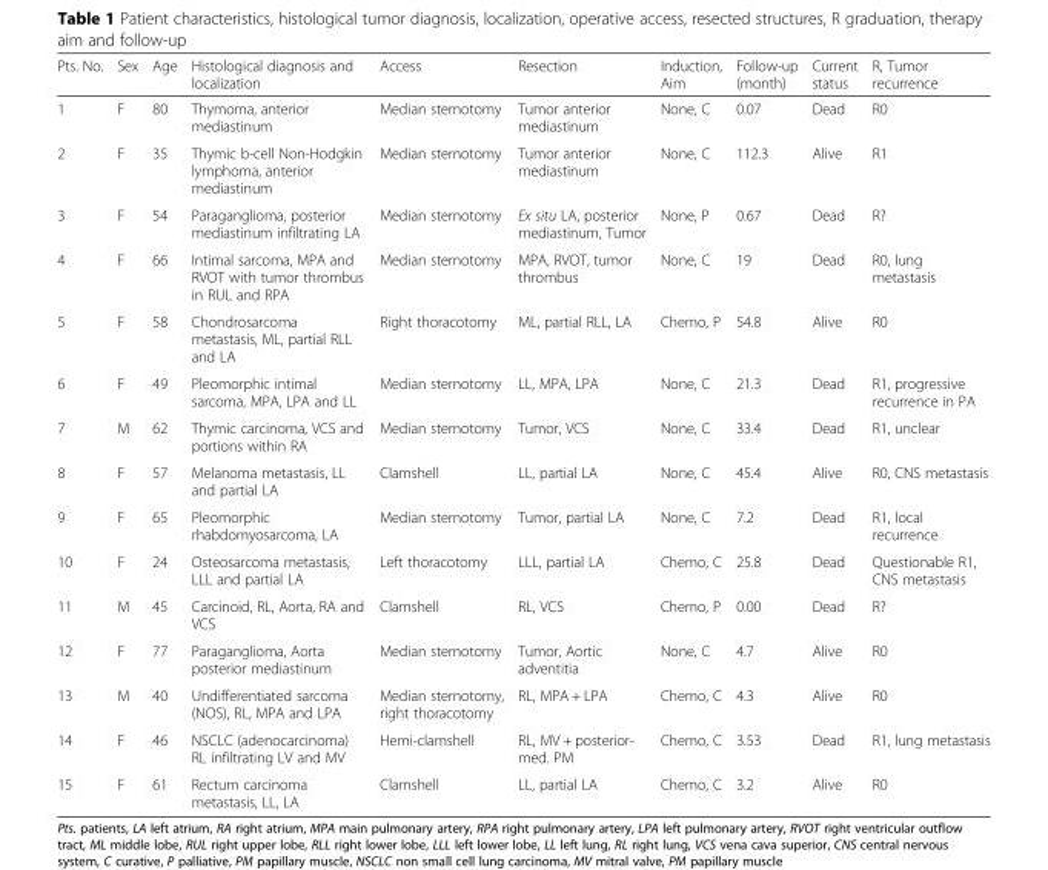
<table><thead><tr><td>Pts. No.</td><td>Sex</td><td>Age</td><td>Histological diagnosis and localization</td><td>Access</td><td>Resection</td><td>Induction, Aim</td><td>Follow-up (month)</td><td>Current status</td><td>R, Tumor recurrence</td></tr></thead><tbody><tr><td>1</td><td>F</td><td>80</td><td>Thymoma, anterior mediastinum</td><td>Median sternotomy</td><td>Tumor anterior mediastinum</td><td>None, C</td><td>0.07</td><td>Dead</td><td>R0</td></tr><tr><td>2</td><td>F</td><td>35</td><td>Thymic b-cell Non-Hodgkin lymphoma, anterior mediastinum</td><td>Median sternotomy</td><td>Tumor anterior mediastinum</td><td>None, C</td><td>112.3</td><td>Alive</td><td>R1</td></tr><tr><td>3</td><td>F</td><td>54</td><td>Paraganglioma, posterior mediastinum infiltrating LA</td><td>Median sternotomy</td><td>Ex situ LA, posterior mediastinum, Tumor</td><td>None, P</td><td>0.67</td><td>Dead</td><td>R?</td></tr><tr><td>4</td><td>F</td><td>66</td><td>Intimal sarcoma, MPA and RVOT with tumor thrombus in RUL and RPA</td><td>Median sternotomy</td><td>MPA, RVOT, tumor thrombus</td><td>None, C</td><td>19</td><td>Dead</td><td>R0, lung metastasis</td></tr><tr><td>5</td><td>F</td><td>58</td><td>Chondrosarcoma metastasis, ML, partial RLL and LA</td><td>Right thoracotomy</td><td>ML, partial RLL, LA</td><td>Chemo, P</td><td>54.8</td><td>Alive</td><td>R0</td></tr><tr><td>6</td><td>F</td><td>49</td><td>Pleomorphic intimal sarcoma, MPA, LPA and LL</td><td>Median sternotomy</td><td>LL, MPA, LPA</td><td>None, C</td><td>21.3</td><td>Dead</td><td>R1, progressive recurrence in PA</td></tr><tr><td>7</td><td>M</td><td>62</td><td>Thymic carcinoma, VCS and portions within RA</td><td>Median sternotomy</td><td>Tumor, VCS</td><td>None, C</td><td>33.4</td><td>Dead</td><td>R1, unclear</td></tr><tr><td>8</td><td>F</td><td>57</td><td>Melanoma metastasis, LL and partial LA</td><td>Clamshell</td><td>LL, partial LA</td><td>None, C</td><td>45.4</td><td>Alive</td><td>R0, CNS metastasis</td></tr><tr><td>9</td><td>F</td><td>65</td><td>Pleomorphic rhabdomyosarcoma, LA</td><td>Median sternotomy</td><td>Tumor, partial LA</td><td>None, C</td><td>7.2</td><td>Dead</td><td>R1, local recurrence</td></tr><tr><td>10</td><td>F</td><td>24</td><td>Osteosarcoma metastasis, LLL and partial LA</td><td>Left thoracotomy</td><td>LLL, partial LA</td><td>Chemo, C</td><td>25.8</td><td>Dead</td><td>Questionable R1, CNS metastasis</td></tr><tr><td>11</td><td>M</td><td>45</td><td>Carcinoid, RL, Aorta, RA and VCS</td><td>Clamshell</td><td>RL, VCS</td><td>Chemo, P</td><td>0.00</td><td>Dead</td><td>R?</td></tr><tr><td>12</td><td>F</td><td>77</td><td>Paraganglioma, Aorta posterior mediastinum</td><td>Median sternotomy</td><td>Tumor, Aortic adventitia</td><td>None, C</td><td>4.7</td><td>Alive</td><td>R0</td></tr><tr><td>13</td><td>M</td><td>40</td><td>Undifferentiated sarcoma (NOS), RL, MPA and LPA</td><td>Median sternotomy, right thoracotomy</td><td>RL, MPA + LPA</td><td>Chemo, C</td><td>4.3</td><td>Alive</td><td>R0</td></tr><tr><td>14</td><td>F</td><td>46</td><td>NSCLC (adenocarcinoma) RL infiltrating LV and MV</td><td>Hemi-clamshell</td><td>RL, MV + posterior- med. PM</td><td>Chemo, C</td><td>3.53</td><td>Dead</td><td>R1, lung metastasis</td></tr><tr><td>15</td><td>F</td><td>61</td><td>Rectum carcinoma metastasis, LL, LA</td><td>Clamshell</td><td>LL, partial LA</td><td>Chemo, C</td><td>3.2</td><td>Alive</td><td>R0</td></tr></tbody></table>